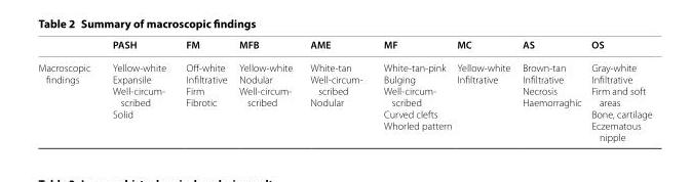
<table><thead><tr><td></td><td>PASH</td><td>FM</td><td>MFB</td><td>AME</td><td>MF</td><td>MC</td><td>AS</td><td>OS</td></tr></thead><tbody><tr><td>Macroscopic findings</td><td>Yellow-white Expansile Well-circum- scribed Solid</td><td>Off-white Infiltrative Firm Fibrotic</td><td>Yellow-white Nodular Well-circum- scribed</td><td>White-tan Well-circum- scribed Nodular</td><td>White-tan-pink Bulging Well-circum- scribed Curved clefts Whorled pattern</td><td>Yellow-white Infiltrative</td><td>Brown-tan Infiltrative Necrosis Haemorraghic</td><td>Gray-white Infiltrative Firm and soft areas Bone, cartilage Eczematous nipple</td></tr></tbody></table>